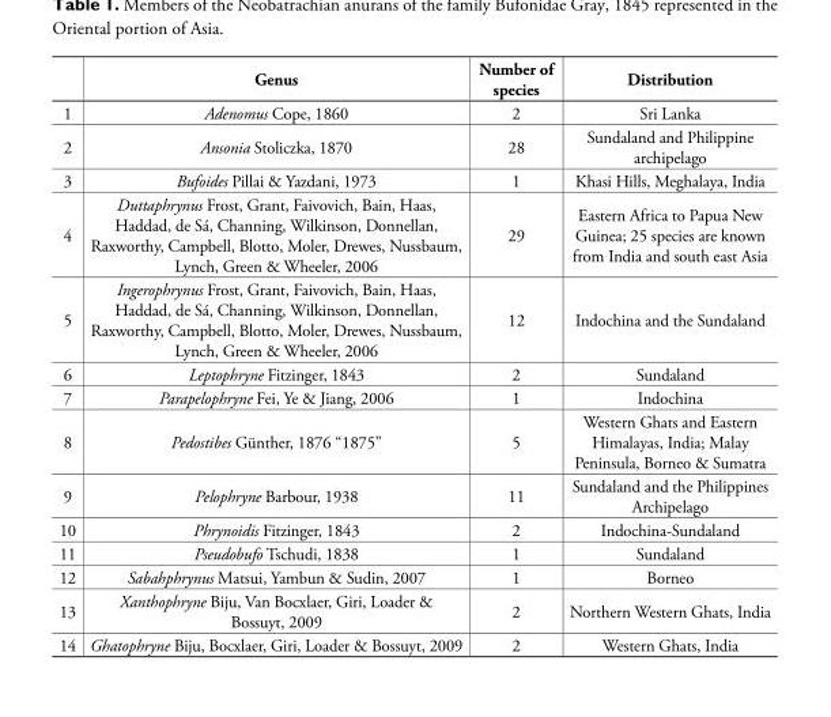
<table><thead><tr><td></td><td>Genus</td><td>Number of species</td><td>Distribution</td></tr></thead><tbody><tr><td>1</td><td>Adenomus Cope, 1860</td><td>2</td><td>Sri Lanka</td></tr><tr><td>2</td><td>Ansonia Stoliczka, 1870</td><td>28</td><td>Sundaland and Philippine archipelago</td></tr><tr><td>3</td><td>Bufoides Pillai &amp; Yazdani, 1973</td><td>1</td><td>Khasi Hills, Meghalaya, India</td></tr><tr><td>4</td><td>Duttaphrynus Frost, Grant, Faivovich, Bain, Haas, Haddad, de Sá, Channing, Wilkinson, Donnellan, Raxworthy, Campbell, Blotto, Moler, Drewes, Nussbaum, Lynch, Green &amp; Wheeler, 2006</td><td>29</td><td>Eastern Africa to Papua New Guinea; 25 species are known from India and south east Asia</td></tr><tr><td>5</td><td>Ingerophrynus Frost, Grant, Faivovich, Bain, Haas, Haddad, de Sá, Channing, Wilkinson, Donnellan, Raxworthy, Campbell, Blotto, Moler, Drewes, Nussbaum, Lynch, Green &amp; Wheeler, 2006</td><td>12</td><td>Indochina and the Sundaland</td></tr><tr><td>6</td><td>Leptophryne Fitzinger, 1843</td><td>2</td><td>Sundaland</td></tr><tr><td>7</td><td>Parapelophryne Fei, Ye &amp; Jiang, 2006</td><td>1</td><td>Indochina</td></tr><tr><td>8</td><td>Pedostibes Günther, 1876 “1875”</td><td>5</td><td>Western Ghats and Eastern Himalayas, India; Malay Peninsula, Borneo &amp; Sumatra</td></tr><tr><td>9</td><td>Pelophryne Barbour, 1938</td><td>11</td><td>Sundaland and the Philippines Archipelago</td></tr><tr><td>10</td><td>Phrynoidis Fitzinger, 1843</td><td>2</td><td>Indochina-Sundaland</td></tr><tr><td>11</td><td>Pseudobufo Tschudi, 1838</td><td>1</td><td>Sundaland</td></tr><tr><td>12</td><td>Sabahphrynus Matsui, Yambun &amp; Sudin, 2007</td><td>1</td><td>Borneo</td></tr><tr><td>13</td><td>Xanthophryne Biju, Van Bocxlaer, Giri, Loader &amp; Bossuyt, 2009</td><td>2</td><td>Northern Western Ghats, India</td></tr><tr><td>14</td><td>Ghatophryne Biju, Bocxlaer, Giri, Loader &amp; Bossuyt, 2009</td><td>2</td><td>Western Ghats, India</td></tr></tbody></table>